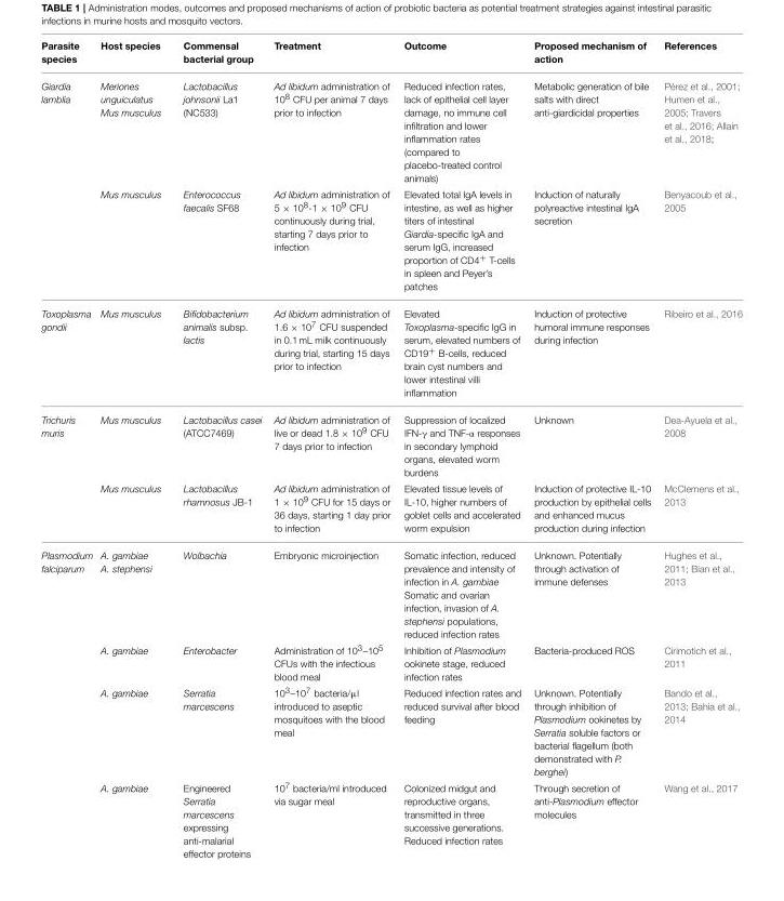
<table><thead><tr><td>Parasite species</td><td>Host species</td><td>Commensal bacterial group</td><td>Treatment</td><td>Outcome</td><td>Proposed mechanism of action</td><td>References</td></tr></thead><tbody><tr><td rowspan="2">Giardia lamblia</td><td>Meriones unguiculatus Mus musculus</td><td>Lactobacillus johnsonii La1 (NC533)</td><td>Ad libidum administration of 10<sup>8</sup> CFU per animal 7 days prior to infection</td><td>Reduced infection rates, lack of epithelial cell layer damage, no immune cell infiltration and lower inflammation rates (compared to placebo-treated control animals)</td><td>Metabolic generation of bile salts with direct anti-giardicidal properties</td><td>Pérez et al., 2001; Humen et al., 2005; Travers et al., 2016; Allain et al., 2018;</td></tr><tr><td>Mus musculus</td><td>Enterococcus faecalis SF68</td><td>Ad libidum administration of 5 × 10<sup>8</sup>-1 × 10<sup>9</sup> CFU continuously during trial, starting 7 days prior to infection</td><td>Elevated total IgA levels in intestine, as well as higher titers of intestinal Giardia-specific IgA and serum IgG, increased proportion of CD4<sup>+</sup> T-cells in spleen and Peyer’s patches</td><td>Induction of naturally polyreactive intestinal IgA secretion</td><td>Benyacoub et al., 2005</td></tr><tr><td>Toxoplasma gondii</td><td>Mus musculus</td><td>Bifidobacterium animalis subsp. lactis</td><td>Ad libidum administration of 1.6 × 10<sup>7</sup> CFU suspended in 0.1 mL milk continuously during trial, starting 15 days prior to infection</td><td>Elevated Toxoplasma-specific IgG in serum, elevated numbers of CD19<sup>+</sup> B-cells, reduced brain cyst numbers and lower intestinal villi inflammation</td><td>Induction of protective humoral immune responses during infection</td><td>Ribeiro et al., 2016</td></tr><tr><td rowspan="2">Trichuris muris</td><td>Mus musculus</td><td>Lactobacillus casei (ATCC7469)</td><td>Ad libidum administration of live or dead 1.8 × 10<sup>9</sup> CFU 7 days prior to infection</td><td>Suppression of localized IFN-γ and TNF-α responses in secondary lymphoid organs, elevated worm burdens</td><td>Unknown</td><td>Dea-Ayuela et al., 2008</td></tr><tr><td>Mus musculus</td><td>Lactobacillus rhamnosus JB-1</td><td>Ad libidum administration of 1 × 10<sup>9</sup> CFU for 15 days or 36 days, starting 1 day prior to infection</td><td>Elevated tissue levels of IL-10, higher numbers of goblet cells and accelerated worm expulsion</td><td>Induction of protective IL-10 production by epithelial cells and enhanced mucus production during infection</td><td>McClemens et al., 2013</td></tr><tr><td rowspan="4">Plasmodium falciparum</td><td>A. gambiae A. stephensi</td><td>Wolbachia</td><td>Embryonic microinjection</td><td>Somatic infection, reduced prevalence and intensity of infection in A. gambiae Somatic and ovarian infection, invasion of A. stephensi populations, reduced infection rates</td><td>Unknown. Potentially through activation of immune defenses</td><td>Hughes et al., 2011; Bian et al., 2013</td></tr><tr><td>A. gambiae</td><td>Enterobacter</td><td>Administration of 10<sup>3</sup>–10<sup>5</sup> CFUs with the infectious blood meal</td><td>Inhibition of Plasmodium ookinete stage, reduced infection rates</td><td>Bacteria-produced ROS</td><td>Cirimotich et al., 2011</td></tr><tr><td>A. gambiae</td><td>Serratia marcescens</td><td>10<sup>3</sup>–10<sup>7</sup> bacteria/µl introduced to aseptic mosquitoes with the blood meal</td><td>Reduced infection rates and reduced survival after blood feeding</td><td>Unknown. Potentially through inhibition of Plasmodium ookinetes by Serratia soluble factors or bacterial flagellum (both demonstrated with P. berghei)</td><td>Bando et al., 2013; Bahia et al., 2014</td></tr><tr><td>A. gambiae</td><td>Engineered Serratia marcescens expressing anti-malarial effector proteins</td><td>10<sup>7</sup> bacteria/ml introduced via sugar meal</td><td>Colonized midgut and reproductive organs, transmitted in three successive generations. Reduced infection rates</td><td>Through secretion of anti-Plasmodium effector molecules</td><td>Wang et al., 2017</td></tr></tbody></table>